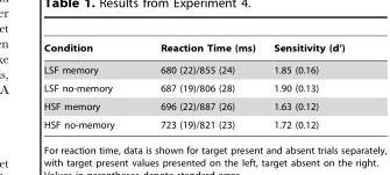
<table><thead><tr><td>Condition</td><td>Reaction Time (ms)</td><td>Sensitivity (d’)</td></tr></thead><tbody><tr><td>LSF memory</td><td>680 (22)/855 (24)</td><td>1.85 (0.16)</td></tr><tr><td>LSF no-memory</td><td>687 (19)/806 (28)</td><td>1.90 (0.13)</td></tr><tr><td>HSF memory</td><td>696 (22)/887 (26)</td><td>1.63 (0.12)</td></tr><tr><td>HSF no-memory</td><td>723 (19)/821 (23)</td><td>1.72 (0.12)</td></tr></tbody></table>